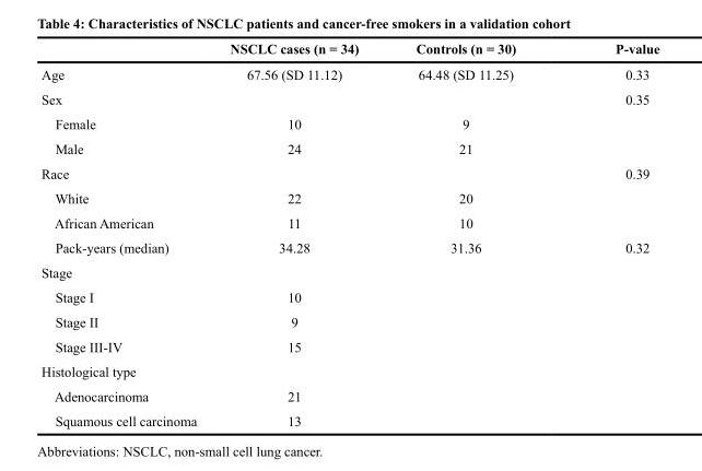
<table><thead><tr><td></td><td>NSCLC cases (n = 34)</td><td>Controls (n = 30)</td><td>P-value</td></tr></thead><tbody><tr><td>Age</td><td>67.56 (SD 11.12)</td><td>64.48 (SD 11.25)</td><td>0.33</td></tr><tr><td>Sex</td><td></td><td></td><td>0.35</td></tr><tr><td>Female</td><td>10</td><td>9</td><td></td></tr><tr><td>Male</td><td>24</td><td>21</td><td></td></tr><tr><td>Race</td><td></td><td></td><td>0.39</td></tr><tr><td>White</td><td>22</td><td>20</td><td></td></tr><tr><td>African American</td><td>11</td><td>10</td><td></td></tr><tr><td>Pack-years (median)</td><td>34.28</td><td>31.36</td><td>0.32</td></tr><tr><td colspan="4">Stage</td></tr><tr><td>Stage I</td><td>10</td><td></td><td></td></tr><tr><td>Stage II</td><td>9</td><td></td><td></td></tr><tr><td>Stage III-IV</td><td>15</td><td></td><td></td></tr><tr><td colspan="4">Histological type</td></tr><tr><td>Adenocarcinoma</td><td>21</td><td></td><td></td></tr><tr><td>Squamous cell carcinoma</td><td>13</td><td></td><td></td></tr></tbody></table>